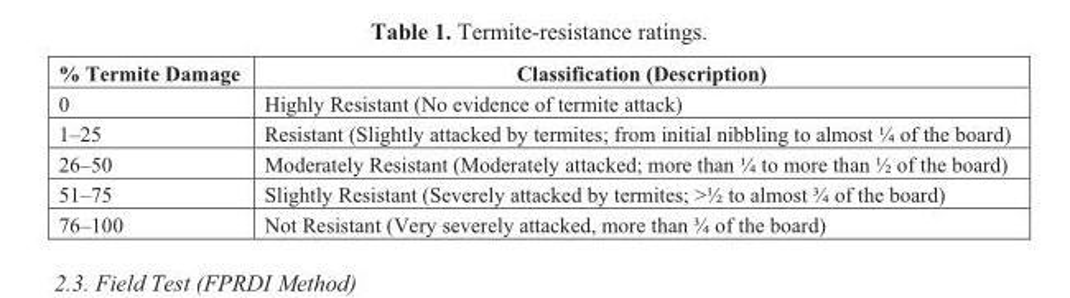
<table><thead><tr><td>% Termite Damage</td><td>Classification (Description)</td></tr></thead><tbody><tr><td>0</td><td>Highly Resistant (No evidence of termite attack)</td></tr><tr><td>1–25</td><td>Resistant (Slightly attacked by termites; from initial nibbling to almost ¼ of the board)</td></tr><tr><td>26–50</td><td>Moderately Resistant (Moderately attacked; more than ¼ to more than ½ of the board)</td></tr><tr><td>51–75</td><td>Slightly Resistant (Severely attacked by termites; &gt;½ to almost ¾ of the board)</td></tr><tr><td>76–100</td><td>Not Resistant (Very severely attacked, more than ¾ of the board)</td></tr></tbody></table>